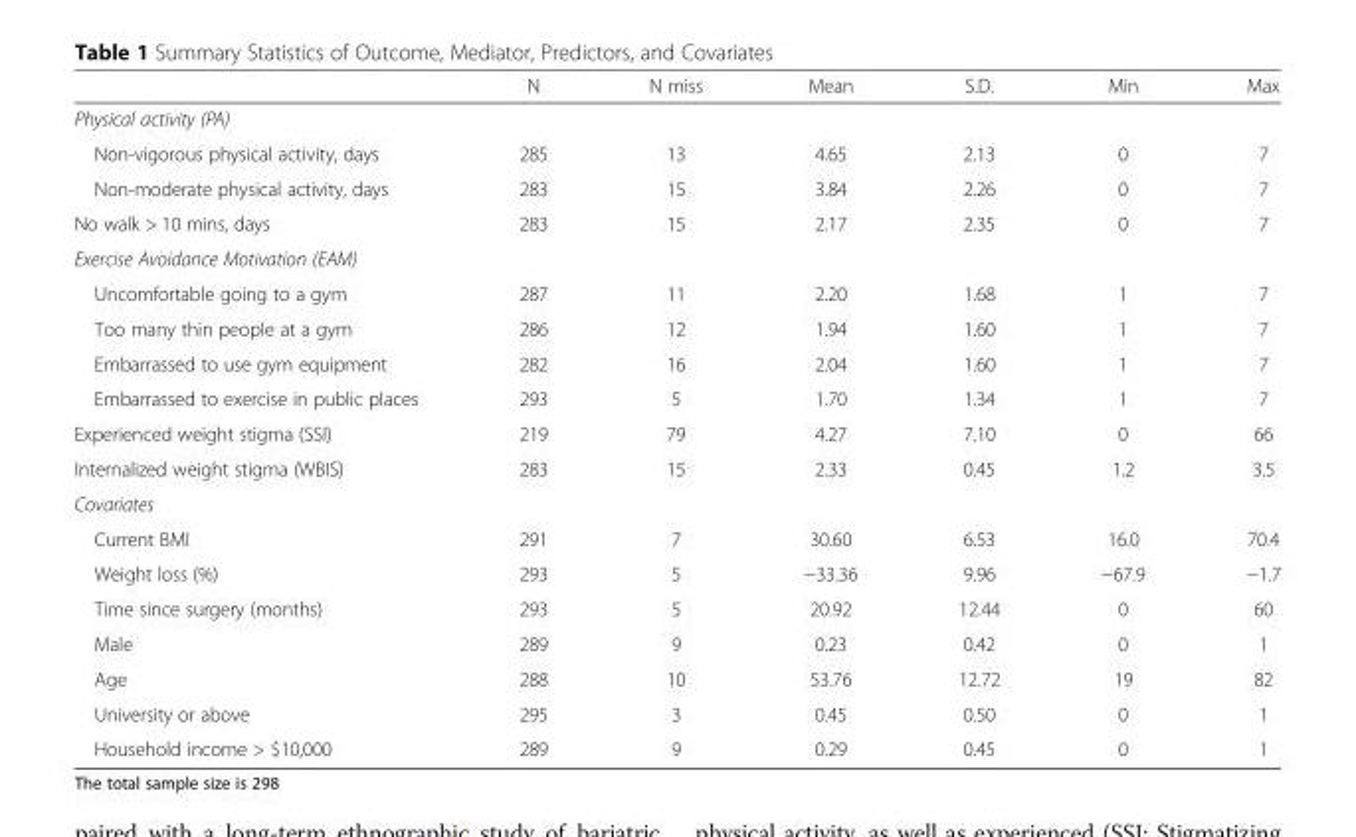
<table><thead><tr><td></td><td>N</td><td>N miss</td><td>Mean</td><td>S.D.</td><td>Min</td><td>Max</td></tr></thead><tbody><tr><td colspan="7">Physical activity (PA)</td></tr><tr><td>Non-vigorous physical activity, days</td><td>285</td><td>13</td><td>4.65</td><td>2.13</td><td>0</td><td>7</td></tr><tr><td>Non-moderate physical activity, days</td><td>283</td><td>15</td><td>3.84</td><td>2.26</td><td>0</td><td>7</td></tr><tr><td>No walk &gt; 10 mins, days</td><td>283</td><td>15</td><td>2.17</td><td>2.35</td><td>0</td><td>7</td></tr><tr><td colspan="7">Exercise Avoidance Motivation (EAM)</td></tr><tr><td>Uncomfortable going to a gym</td><td>287</td><td>11</td><td>2.20</td><td>1.68</td><td>1</td><td>7</td></tr><tr><td>Too many thin people at a gym</td><td>286</td><td>12</td><td>1.94</td><td>1.60</td><td>1</td><td>7</td></tr><tr><td>Embarrassed to use gym equipment</td><td>282</td><td>16</td><td>2.04</td><td>1.60</td><td>1</td><td>7</td></tr><tr><td>Embarrassed to exercise in public places</td><td>293</td><td>5</td><td>1.70</td><td>1.34</td><td>1</td><td>7</td></tr><tr><td>Experienced weight stigma (SSI)</td><td>219</td><td>79</td><td>4.27</td><td>7.10</td><td>0</td><td>66</td></tr><tr><td>Internalized weight stigma (WBIS)</td><td>283</td><td>15</td><td>2.33</td><td>0.45</td><td>1.2</td><td>3.5</td></tr><tr><td colspan="7">Covariates</td></tr><tr><td>Current BMI</td><td>291</td><td>7</td><td>30.60</td><td>6.53</td><td>16.0</td><td>70.4</td></tr><tr><td>Weight loss (%)</td><td>293</td><td>5</td><td>−33.36</td><td>9.96</td><td>−67.9</td><td>−1.7</td></tr><tr><td>Time since surgery (months)</td><td>293</td><td>5</td><td>20.92</td><td>12.44</td><td>0</td><td>60</td></tr><tr><td>Male</td><td>289</td><td>9</td><td>0.23</td><td>0.42</td><td>0</td><td>1</td></tr><tr><td>Age</td><td>288</td><td>10</td><td>53.76</td><td>12.72</td><td>19</td><td>82</td></tr><tr><td>University or above</td><td>295</td><td>3</td><td>0.45</td><td>0.50</td><td>0</td><td>1</td></tr><tr><td>Household income &gt; $10,000</td><td>289</td><td>9</td><td>0.29</td><td>0.45</td><td>0</td><td>1</td></tr></tbody></table>